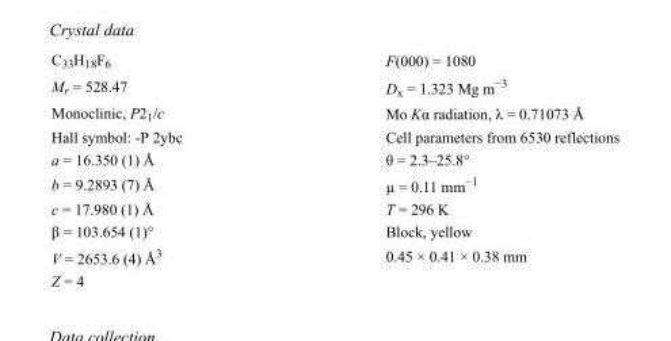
<table><tbody><tr><td>C<sub>33</sub>H<sub>18</sub>F<sub>6</sub></td><td>F(000) = 1080</td></tr><tr><td>M<sub>r</sub> = 528.47</td><td>D<sub>x</sub> = 1.323 Mg m<sup>−3</sup></td></tr><tr><td>Monoclinic, P2<sub>1</sub>/c</td><td>Mo Kα radiation, λ = 0.71073 Å</td></tr><tr><td>Hall symbol: -P 2ybc</td><td>Cell parameters from 6530 reflections</td></tr><tr><td>a = 16.350 (1) Å</td><td>θ = 2.3–25.8°</td></tr><tr><td>b = 9.2893 (7) Å</td><td>µ = 0.11 mm<sup>−1</sup></td></tr><tr><td>c = 17.980 (1) Å</td><td>T = 296 K</td></tr><tr><td>β = 103.654 (1)°</td><td>Block, yellow</td></tr><tr><td>V = 2653.6 (4) Å<sup>3</sup></td><td>0.45 × 0.41 × 0.38 mm</td></tr><tr><td>Z = 4</td><td></td></tr></tbody></table>